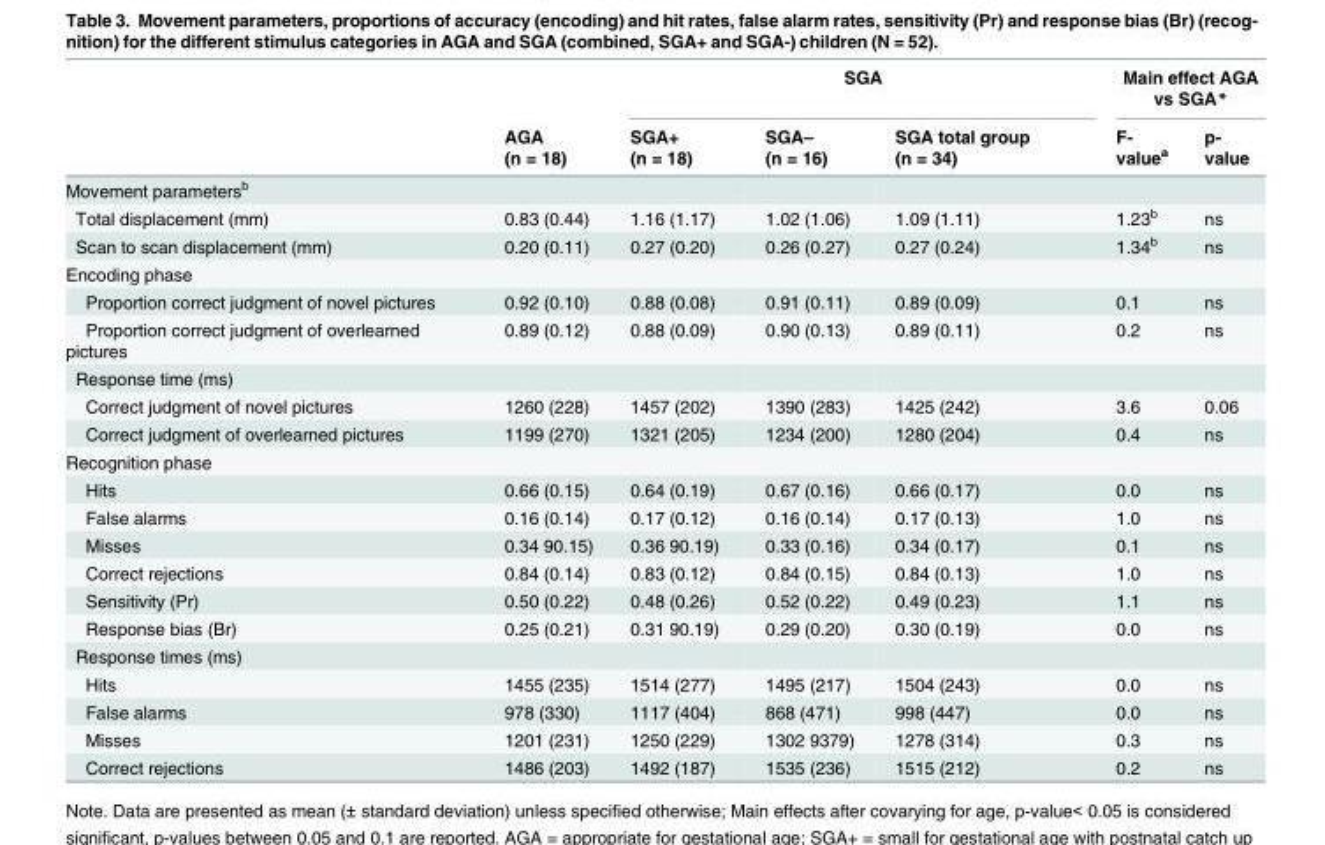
<table><thead><tr><td rowspan="2"></td><td rowspan="2">AGA (n = 18)</td><td colspan="3">SGA</td><td colspan="2">Main effect AGA vs SGA*</td></tr><tr><td>SGA+ (n = 18)</td><td>SGA– (n = 16)</td><td>SGA total group (n = 34)</td><td>F- value<sup>a</sup></td><td>p- value</td></tr></thead><tbody><tr><td colspan="7">Movement parameters<sup>b</sup></td></tr><tr><td>Total displacement (mm)</td><td>0.83 (0.44)</td><td>1.16 (1.17)</td><td>1.02 (1.06)</td><td>1.09 (1.11)</td><td>1.23<sup>b</sup></td><td>ns</td></tr><tr><td>Scan to scan displacement (mm)</td><td>0.20 (0.11)</td><td>0.27 (0.20)</td><td>0.26 (0.27)</td><td>0.27 (0.24)</td><td>1.34<sup>b</sup></td><td>ns</td></tr><tr><td colspan="7">Encoding phase</td></tr><tr><td>Proportion correct judgment of novel pictures</td><td>0.92 (0.10)</td><td>0.88 (0.08)</td><td>0.91 (0.11)</td><td>0.89 (0.09)</td><td>0.1</td><td>ns</td></tr><tr><td>Proportion correct judgment of overlearned pictures</td><td>0.89 (0.12)</td><td>0.88 (0.09)</td><td>0.90 (0.13)</td><td>0.89 (0.11)</td><td>0.2</td><td>ns</td></tr><tr><td colspan="7">Response time (ms)</td></tr><tr><td>Correct judgment of novel pictures</td><td>1260 (228)</td><td>1457 (202)</td><td>1390 (283)</td><td>1425 (242)</td><td>3.6</td><td>0.06</td></tr><tr><td>Correct judgment of overlearned pictures</td><td>1199 (270)</td><td>1321 (205)</td><td>1234 (200)</td><td>1280 (204)</td><td>0.4</td><td>ns</td></tr><tr><td colspan="7">Recognition phase</td></tr><tr><td>Hits</td><td>0.66 (0.15)</td><td>0.64 (0.19)</td><td>0.67 (0.16)</td><td>0.66 (0.17)</td><td>0.0</td><td>ns</td></tr><tr><td>False alarms</td><td>0.16 (0.14)</td><td>0.17 (0.12)</td><td>0.16 (0.14)</td><td>0.17 (0.13)</td><td>1.0</td><td>ns</td></tr><tr><td>Misses</td><td>0.34 90.15)</td><td>0.36 90.19)</td><td>0.33 (0.16)</td><td>0.34 (0.17)</td><td>0.1</td><td>ns</td></tr><tr><td>Correct rejections</td><td>0.84 (0.14)</td><td>0.83 (0.12)</td><td>0.84 (0.15)</td><td>0.84 (0.13)</td><td>1.0</td><td>ns</td></tr><tr><td>Sensitivity (Pr)</td><td>0.50 (0.22)</td><td>0.48 (0.26)</td><td>0.52 (0.22)</td><td>0.49 (0.23)</td><td>1.1</td><td>ns</td></tr><tr><td>Response bias (Br)</td><td>0.25 (0.21)</td><td>0.31 90.19)</td><td>0.29 (0.20)</td><td>0.30 (0.19)</td><td>0.0</td><td>ns</td></tr><tr><td colspan="7">Response times (ms)</td></tr><tr><td>Hits</td><td>1455 (235)</td><td>1514 (277)</td><td>1495 (217)</td><td>1504 (243)</td><td>0.0</td><td>ns</td></tr><tr><td>False alarms</td><td>978 (330)</td><td>1117 (404)</td><td>868 (471)</td><td>998 (447)</td><td>0.0</td><td>ns</td></tr><tr><td>Misses</td><td>1201 (231)</td><td>1250 (229)</td><td>1302 9379)</td><td>1278 (314)</td><td>0.3</td><td>ns</td></tr><tr><td>Correct rejections</td><td>1486 (203)</td><td>1492 (187)</td><td>1535 (236)</td><td>1515 (212)</td><td>0.2</td><td>ns</td></tr></tbody></table>